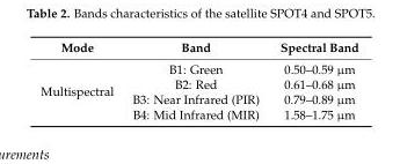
<table><thead><tr><td>Mode</td><td>Band</td><td>Spectral Band</td></tr></thead><tbody><tr><td rowspan="4">Multispectral</td><td>B1: Green</td><td>0.50–0.59 µm</td></tr><tr><td>B2: Red</td><td>0.61–0.68 µm</td></tr><tr><td>B3: Near Infrared (PIR)</td><td>0.79–0.89 µm</td></tr><tr><td>B4: Mid Infrared (MIR)</td><td>1.58–1.75 µm</td></tr></tbody></table>